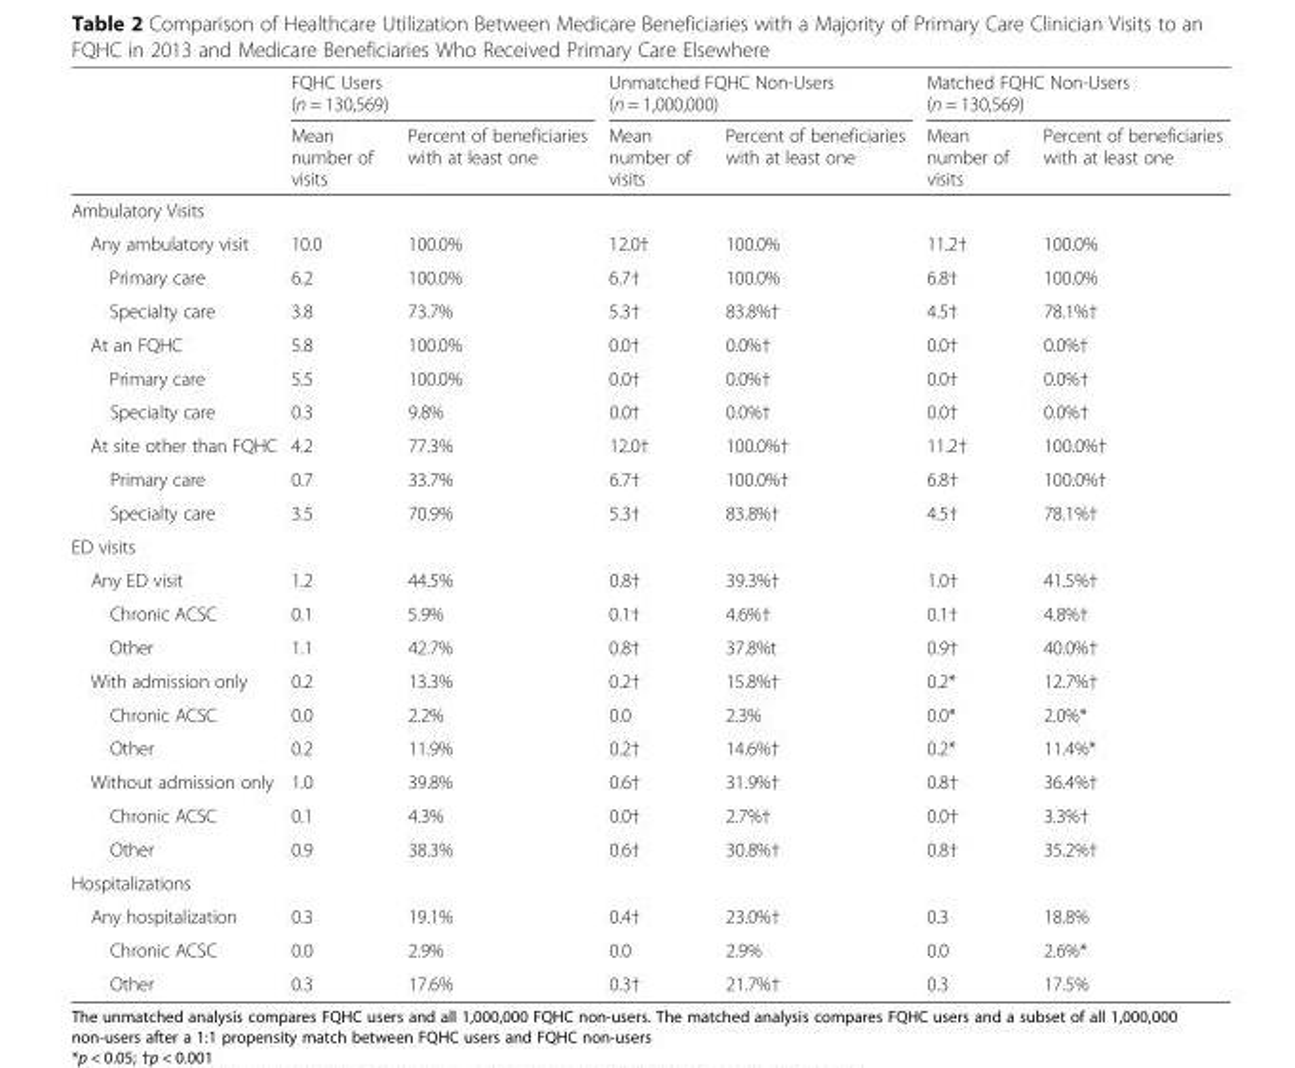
<table><thead><tr><td rowspan="2"></td><td colspan="2">FQHC Users (n = 130,569)</td><td colspan="2">Unmatched FQHC Non-Users (n = 1,000,000)</td><td colspan="2">Matched FQHC Non-Users (n = 130,569)</td></tr><tr><td>Mean number of visits</td><td>Percent of beneficiaries with at least one</td><td>Mean number of visits</td><td>Percent of beneficiaries with at least one</td><td>Mean number of visits</td><td>Percent of beneficiaries with at least one</td></tr></thead><tbody><tr><td colspan="7">Ambulatory Visits</td></tr><tr><td>Any ambulatory visit</td><td>10.0</td><td>100.0%</td><td>12.0†</td><td>100.0%</td><td>11.2†</td><td>100.0%</td></tr><tr><td>Primary care</td><td>6.2</td><td>100.0%</td><td>6.7†</td><td>100.0%</td><td>6.8†</td><td>100.0%</td></tr><tr><td>Specialty care</td><td>3.8</td><td>73.7%</td><td>5.3†</td><td>83.8%†</td><td>4.5†</td><td>78.1%†</td></tr><tr><td>At an FQHC</td><td>5.8</td><td>100.0%</td><td>0.0†</td><td>0.0%†</td><td>0.0†</td><td>0.0%†</td></tr><tr><td>Primary care</td><td>5.5</td><td>100.0%</td><td>0.0†</td><td>0.0%†</td><td>0.0†</td><td>0.0%†</td></tr><tr><td>Specialty care</td><td>0.3</td><td>9.8%</td><td>0.0†</td><td>0.0%†</td><td>0.0†</td><td>0.0%†</td></tr><tr><td>At site other than FQHC</td><td>4.2</td><td>77.3%</td><td>12.0†</td><td>100.0%†</td><td>11.2†</td><td>100.0%†</td></tr><tr><td>Primary care</td><td>0.7</td><td>33.7%</td><td>6.7†</td><td>100.0%†</td><td>6.8†</td><td>100.0%†</td></tr><tr><td>Specialty care</td><td>3.5</td><td>70.9%</td><td>5.3†</td><td>83.8%†</td><td>4.5†</td><td>78.1%†</td></tr><tr><td colspan="7">ED visits</td></tr><tr><td>Any ED visit</td><td>1.2</td><td>44.5%</td><td>0.8†</td><td>39.3%†</td><td>1.0†</td><td>41.5%†</td></tr><tr><td>Chronic ACSC</td><td>0.1</td><td>5.9%</td><td>0.1†</td><td>4.6%†</td><td>0.1†</td><td>4.8%†</td></tr><tr><td>Other</td><td>1.1</td><td>42.7%</td><td>0.8†</td><td>37.8%t</td><td>0.9†</td><td>40.0%†</td></tr><tr><td>With admission only</td><td>0.2</td><td>13.3%</td><td>0.2†</td><td>15.8%†</td><td>0.2*</td><td>12.7%†</td></tr><tr><td>Chronic ACSC</td><td>0.0</td><td>2.2%</td><td>0.0</td><td>2.3%</td><td>0.0*</td><td>2.0%*</td></tr><tr><td>Other</td><td>0.2</td><td>11.9%</td><td>0.2†</td><td>14.6%†</td><td>0.2*</td><td>11.4%*</td></tr><tr><td>Without admission only</td><td>1.0</td><td>39.8%</td><td>0.6†</td><td>31.9%†</td><td>0.8†</td><td>36.4%†</td></tr><tr><td>Chronic ACSC</td><td>0.1</td><td>4.3%</td><td>0.0†</td><td>2.7%†</td><td>0.0†</td><td>3.3%†</td></tr><tr><td>Other</td><td>0.9</td><td>38.3%</td><td>0.6†</td><td>30.8%†</td><td>0.8†</td><td>35.2%†</td></tr><tr><td colspan="7">Hospitalizations</td></tr><tr><td>Any hospitalization</td><td>0.3</td><td>19.1%</td><td>0.4†</td><td>23.0%†</td><td>0.3</td><td>18.8%</td></tr><tr><td>Chronic ACSC</td><td>0.0</td><td>2.9%</td><td>0.0</td><td>2.9%</td><td>0.0</td><td>2.6%*</td></tr><tr><td>Other</td><td>0.3</td><td>17.6%</td><td>0.3†</td><td>21.7%†</td><td>0.3</td><td>17.5%</td></tr></tbody></table>